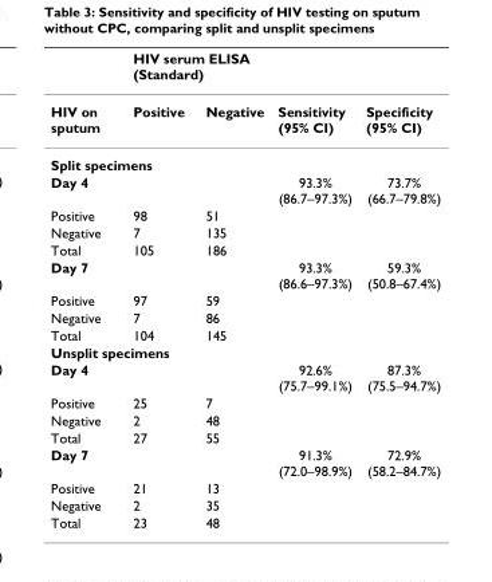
<table><thead><tr><td rowspan="2">HIV on sputum</td><td colspan="2">HIV serum ELISA (Standard)</td><td rowspan="2">Sensitivity (95% CI)</td><td rowspan="2">Specificity (95% CI)</td></tr><tr><td>Positive</td><td>Negative</td></tr></thead><tbody><tr><td colspan="5">Split specimens</td></tr><tr><td>Day 4</td><td></td><td></td><td>93.3% (86.7–97.3%)</td><td>73.7% (66.7–79.8%)</td></tr><tr><td>Positive</td><td>98</td><td>51</td><td></td><td></td></tr><tr><td>Negative</td><td>7</td><td>135</td><td></td><td></td></tr><tr><td>Total</td><td>105</td><td>186</td><td></td><td></td></tr><tr><td>Day 7</td><td></td><td></td><td>93.3% (86.6–97.3%)</td><td>59.3% (50.8–67.4%)</td></tr><tr><td>Positive</td><td>97</td><td>59</td><td></td><td></td></tr><tr><td>Negative</td><td>7</td><td>86</td><td></td><td></td></tr><tr><td>Total</td><td>104</td><td>145</td><td></td><td></td></tr><tr><td colspan="5">Unsplit specimens</td></tr><tr><td>Day 4</td><td></td><td></td><td>92.6% (75.7–99.1%)</td><td>87.3% (75.5–94.7%)</td></tr><tr><td>Positive</td><td>25</td><td>7</td><td></td><td></td></tr><tr><td>Negative</td><td>2</td><td>48</td><td></td><td></td></tr><tr><td>Total</td><td>27</td><td>55</td><td></td><td></td></tr><tr><td>Day 7</td><td></td><td></td><td>91.3% (72.0–98.9%)</td><td>72.9% (58.2–84.7%)</td></tr><tr><td>Positive</td><td>21</td><td>13</td><td></td><td></td></tr><tr><td>Negative</td><td>2</td><td>35</td><td></td><td></td></tr><tr><td>Total</td><td>23</td><td>48</td><td></td><td></td></tr></tbody></table>